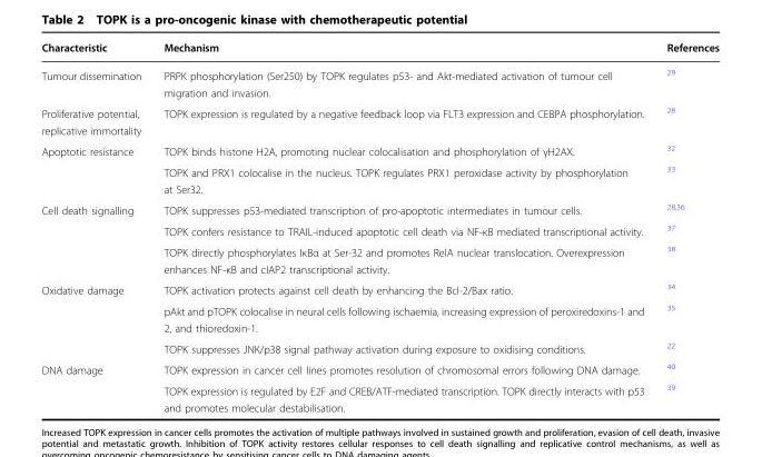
<table><thead><tr><td>Characteristic</td><td>Mechanism</td><td>References</td></tr></thead><tbody><tr><td>Tumour dissemination</td><td>PRPK phosphorylation (Ser250) by TOPK regulates p53- and Akt-mediated activation of tumour cell migration and invasion.</td><td><sup>29</sup></td></tr><tr><td>Proliferative potential, replicative immortality</td><td>TOPK expression is regulated by a negative feedback loop via FLT3 expression and CEBPA phosphorylation.</td><td><sup>28</sup></td></tr><tr><td rowspan="2">Apoptotic resistance</td><td>TOPK binds histone H2A, promoting nuclear colocalisation and phosphorylation of γH2AX.</td><td><sup>32</sup></td></tr><tr><td>TOPK and PRX1 colocalise in the nucleus. TOPK regulates PRX1 peroxidase activity by phosphorylation at Ser32.</td><td><sup>33</sup></td></tr><tr><td rowspan="3">Cell death signalling</td><td>TOPK suppresses p53-mediated transcription of pro-apoptotic intermediates in tumour cells.</td><td><sup>28,36</sup></td></tr><tr><td>TOPK confers resistance to TRAIL-induced apoptotic cell death via NF-κB mediated transcriptional activity.</td><td><sup>37</sup></td></tr><tr><td>TOPK directly phosphorylates IκBα at Ser-32 and promotes RelA nuclear translocation. Overexpression enhances NF-κB and cIAP2 transcriptional activity.</td><td><sup>38</sup></td></tr><tr><td rowspan="3">Oxidative damage</td><td>TOPK activation protects against cell death by enhancing the Bcl-2/Bax ratio.</td><td><sup>34</sup></td></tr><tr><td>pAkt and pTOPK colocalise in neural cells following ischaemia, increasing expression of peroxiredoxins-1 and 2, and thioredoxin-1.</td><td><sup>35</sup></td></tr><tr><td>TOPK suppresses JNK/p38 signal pathway activation during exposure to oxidising conditions.</td><td><sup>22</sup></td></tr><tr><td rowspan="2">DNA damage</td><td>TOPK expression in cancer cell lines promotes resolution of chromosomal errors following DNA damage.</td><td><sup>40</sup></td></tr><tr><td>TOPK expression is regulated by E2F and CREB/ATF-mediated transcription. TOPK directly interacts with p53 and promotes molecular destabilisation.</td><td><sup>39</sup></td></tr></tbody></table>